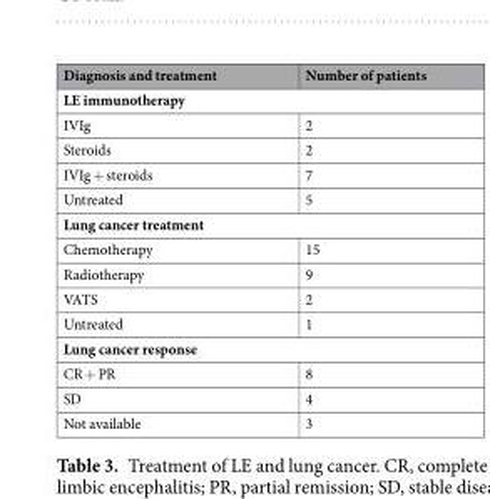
<table><thead><tr><td>Diagnosis and treatment</td><td>Number of patients</td></tr></thead><tbody><tr><td colspan="2">LE immunotherapy</td></tr><tr><td>IVIg</td><td>2</td></tr><tr><td>Steroids</td><td>2</td></tr><tr><td>IVIg + steroids</td><td>7</td></tr><tr><td>Untreated</td><td>5</td></tr><tr><td colspan="2">Lung cancer treatment</td></tr><tr><td>Chemotherapy</td><td>15</td></tr><tr><td>Radiotherapy</td><td>9</td></tr><tr><td>VATS</td><td>2</td></tr><tr><td>Untreated</td><td>1</td></tr><tr><td colspan="2">Lung cancer response</td></tr><tr><td>CR + PR</td><td>8</td></tr><tr><td>SD</td><td>4</td></tr><tr><td>Not available</td><td>3</td></tr></tbody></table>